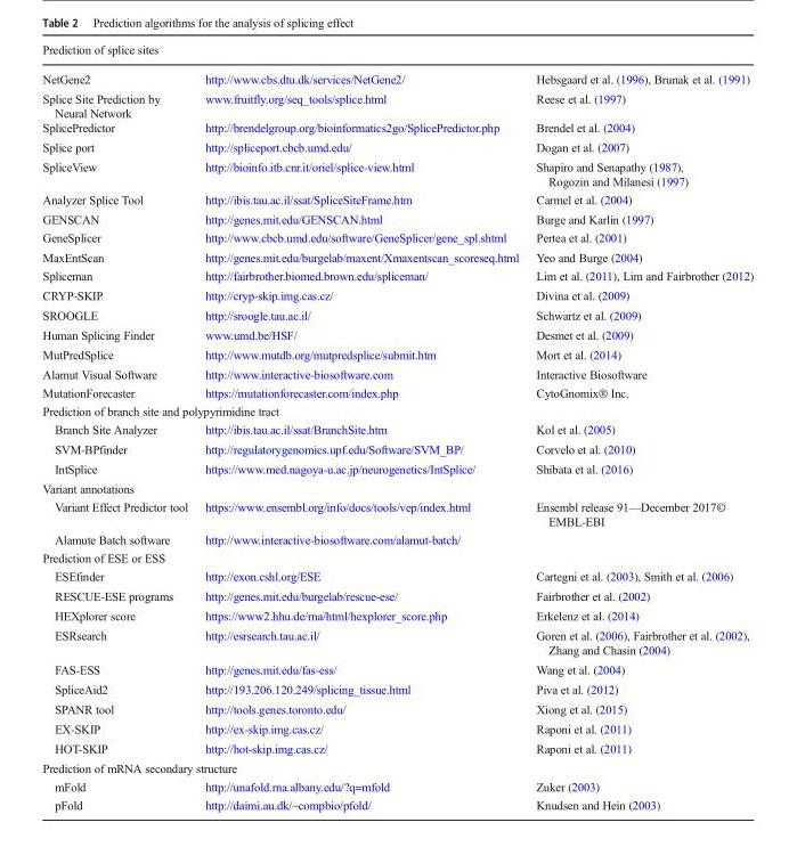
<table><thead><tr><td colspan="3">Prediction of splice sites</td></tr><tr><td>NetGene2</td><td>http://www.cbs.dtu.dk/services/NetGene2/</td><td>Hebsgaard et al. (1996), Brunak et al. (1991)</td></tr></thead><tbody><tr><td>Splice Site Prediction by Neural Network</td><td>www.fruitfly.org/seq_tools/splice.html</td><td>Reese et al. (1997)</td></tr><tr><td>SplicePredictor</td><td>http://brendelgroup.org/bioinformatics2go/SplicePredictor.php</td><td>Brendel et al. (2004)</td></tr><tr><td>Splice port</td><td>http://spliceport.cbcb.umd.edu/</td><td>Dogan et al. (2007)</td></tr><tr><td>SpliceView</td><td>http://bioinfo.itb.cnr.it/oriel/splice-view.html</td><td>Shapiro and Senapathy (1987), Rogozin and Milanesi (1997)</td></tr><tr><td>Analyzer Splice Tool</td><td>http://ibis.tau.ac.il/ssat/SpliceSiteFrame.htm</td><td>Carmel et al. (2004)</td></tr><tr><td>GENSCAN</td><td>http://genes.mit.edu/GENSCAN.html</td><td>Burge and Karlin (1997)</td></tr><tr><td>GeneSplicer</td><td>http://www.cbcb.umd.edu/software/GeneSplicer/gene_spl.shtml</td><td>Pertea et al. (2001)</td></tr><tr><td>MaxEntScan</td><td>http://genes.mit.edu/burgelab/maxent/Xmaxentscan_scoreseq.html</td><td>Yeo and Burge (2004)</td></tr><tr><td>Spliceman</td><td>http://fairbrother.biomed.brown.edu/spliceman/</td><td>Lim et al. (2011), Lim and Fairbrother (2012)</td></tr><tr><td>CRYP-SKIP</td><td>http://cryp-skip.img.cas.cz/</td><td>Divina et al. (2009)</td></tr><tr><td>SROOGLE</td><td>http://sroogle.tau.ac.il/</td><td>Schwartz et al. (2009)</td></tr><tr><td>Human Splicing Finder</td><td>www.umd.be/HSF/</td><td>Desmet et al. (2009)</td></tr><tr><td>MutPredSplice</td><td>http://www.mutdb.org/mutpredsplice/submit.htm</td><td>Mort et al. (2014)</td></tr><tr><td>Alamut Visual Software</td><td>http://www.interactive-biosoftware.com</td><td>Interactive Biosoftware</td></tr><tr><td>MutationForecaster</td><td>https://mutationforecaster.com/index.php</td><td>CytoGnomix® Inc.</td></tr><tr><td colspan="3">Prediction of branch site and polypyrimidine tract</td></tr><tr><td>Branch Site Analyzer</td><td>http://ibis.tau.ac.il/ssat/BranchSite.htm</td><td>Kol et al. (2005)</td></tr><tr><td>SVM-BPfinder</td><td>http://regulatorygenomics.upf.edu/Software/SVM_BP/</td><td>Corvelo et al. (2010)</td></tr><tr><td>IntSplice</td><td>https://www.med.nagoya-u.ac.jp/neurogenetics/IntSplice/</td><td>Shibata et al. (2016)</td></tr><tr><td colspan="3">Variant annotations</td></tr><tr><td>Variant Effect Predictor tool</td><td>https://www.ensembl.org/info/docs/tools/vep/index.html</td><td>Ensembl release 91—December 2017© EMBL-EBI</td></tr><tr><td>Alamute Batch software</td><td>http://www.interactive-biosoftware.com/alamut-batch/</td><td></td></tr><tr><td colspan="3">Prediction of ESE or ESS</td></tr><tr><td>ESEfinder</td><td>http://exon.cshl.org/ESE</td><td>Cartegni et al. (2003), Smith et al. (2006)</td></tr><tr><td>RESCUE-ESE programs</td><td>http://genes.mit.edu/burgelab/rescue-ese/</td><td>Fairbrother et al. (2002)</td></tr><tr><td>HEXplorer score</td><td>https://www2.hhu.de/rna/html/hexplorer_score.php</td><td>Erkelenz et al. (2014)</td></tr><tr><td>ESRsearch</td><td>http://esrsearch.tau.ac.il/</td><td>Goren et al. (2006), Fairbrother et al. (2002), Zhang and Chasin (2004)</td></tr><tr><td>FAS-ESS</td><td>http://genes.mit.edu/fas-ess/</td><td>Wang et al. (2004)</td></tr><tr><td>SpliceAid2</td><td>http://193.206.120.249/splicing_tissue.html</td><td>Piva et al. (2012)</td></tr><tr><td>SPANR tool</td><td>http://tools.genes.toronto.edu/</td><td>Xiong et al. (2015)</td></tr><tr><td>EX-SKIP</td><td>http://ex-skip.img.cas.cz/</td><td>Raponi et al. (2011)</td></tr><tr><td>HOT-SKIP</td><td>http://hot-skip.img.cas.cz/</td><td>Raponi et al. (2011)</td></tr><tr><td colspan="3">Prediction of mRNA secondary structure</td></tr><tr><td>mFold</td><td>http://unafold.rna.albany.edu/?q=mfold</td><td>Zuker (2003)</td></tr><tr><td>pFold</td><td>http://daimi.au.dk/~compbio/pfold/</td><td>Knudsen and Hein (2003)</td></tr></tbody></table>